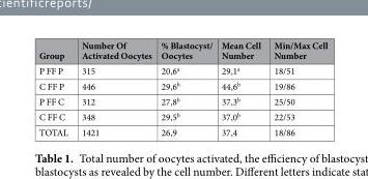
<table><thead><tr><td>Group</td><td>Number Of Activated Oocytes</td><td>% Blastocyst/ Oocytes</td><td>Mean Cell Number</td><td>Min/Max Cell Number</td></tr></thead><tbody><tr><td>P FF P</td><td>315</td><td>20,6<sup>a</sup></td><td>29,1<sup>a</sup></td><td>18/51</td></tr><tr><td>C FF P</td><td>446</td><td>29,6<sup>b</sup></td><td>44,6<sup>b</sup></td><td>19/86</td></tr><tr><td>P FF C</td><td>312</td><td>27,8<sup>b</sup></td><td>37,3<sup>b</sup></td><td>25/50</td></tr><tr><td>C FF C</td><td>348</td><td>29,5<sup>b</sup></td><td>37,0<sup>b</sup></td><td>22/53</td></tr><tr><td>TOTAL</td><td>1421</td><td>26,9</td><td>37,4</td><td>18/86</td></tr></tbody></table>